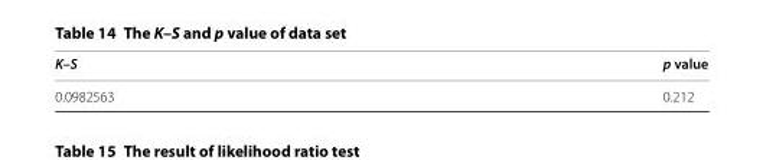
<table><thead><tr><td>K–S</td><td>p value</td></tr></thead><tbody><tr><td>0.0982563</td><td>0.212</td></tr></tbody></table>